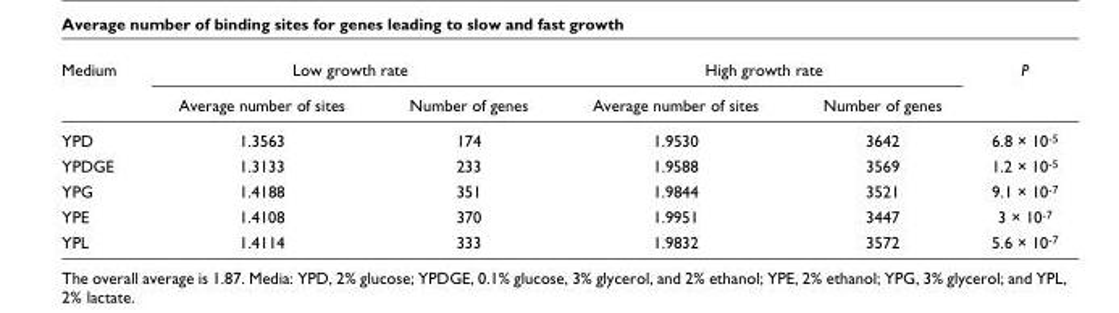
<table><thead><tr><td rowspan="2">Medium</td><td colspan="2">Low growth rate</td><td colspan="2">High growth rate</td><td rowspan="2">P</td></tr><tr><td>Average number of sites</td><td>Number of genes</td><td>Average number of sites</td><td>Number of genes</td></tr></thead><tbody><tr><td>YPD</td><td>1.3563</td><td>174</td><td>1.9530</td><td>3642</td><td>6.8 × 10-5</td></tr><tr><td>YPDGE</td><td>1.3133</td><td>233</td><td>1.9588</td><td>3569</td><td>1.2 × 10-5</td></tr><tr><td>YPG</td><td>1.4188</td><td>351</td><td>1.9844</td><td>3521</td><td>9.1 × 10-7</td></tr><tr><td>YPE</td><td>1.4108</td><td>370</td><td>1.9951</td><td>3447</td><td>3 × 10-7</td></tr><tr><td>YPL</td><td>1.4114</td><td>333</td><td>1.9832</td><td>3572</td><td>5.6 × 10-7</td></tr></tbody></table>